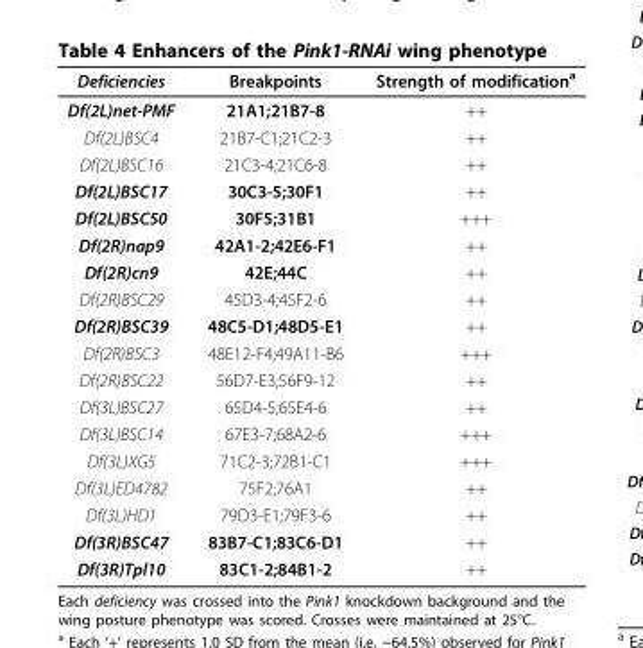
<table><thead><tr><td>Deficiencies</td><td>Breakpoints</td><td>Strength of modification<sup>a</sup></td></tr></thead><tbody><tr><td>Df(2L)net-PMF</td><td>21A1;21B7-8</td><td>++</td></tr><tr><td>Df(2L)BSC4</td><td>21B7-C1;21C2-3</td><td>++</td></tr><tr><td>Df(2L)BSC16</td><td>21C3-4;21C6-8</td><td>++</td></tr><tr><td>Df(2L)BSC17</td><td>30C3-5;30F1</td><td>++</td></tr><tr><td>Df(2L)BSC50</td><td>30F5;31B1</td><td>+++</td></tr><tr><td>Df(2R)nap9</td><td>42A1-2;42E6-F1</td><td>++</td></tr><tr><td>Df(2R)cn9</td><td>42E;44C</td><td>++</td></tr><tr><td>Df(2R)BSC29</td><td>45D3-4;45F2-6</td><td>++</td></tr><tr><td>Df(2R)BSC39</td><td>48C5-D1;48D5-E1</td><td>++</td></tr><tr><td>Df(2R)BSC3</td><td>48E12-F4;49A11-B6</td><td>+++</td></tr><tr><td>Df(2R)BSC22</td><td>56D7-E3;56F9-12</td><td>++</td></tr><tr><td>Df(3L)BSC27</td><td>65D4-5;65E4-6</td><td>++</td></tr><tr><td>Df(3L)BSC14</td><td>67E3-7;68A2-6</td><td>+++</td></tr><tr><td>Df(3L)XG5</td><td>71C2-3;72B1-C1</td><td>+++</td></tr><tr><td>Df(3L)ED4782</td><td>75F2;76A1</td><td>++</td></tr><tr><td>Df(3L)HD1</td><td>79D3-E1;79F3-6</td><td>++</td></tr><tr><td>Df(3R)BSC47</td><td>83B7-C1;83C6-D1</td><td>++</td></tr><tr><td>Df(3R)Tpl10</td><td>83C1-2;84B1-2</td><td>++</td></tr></tbody></table>